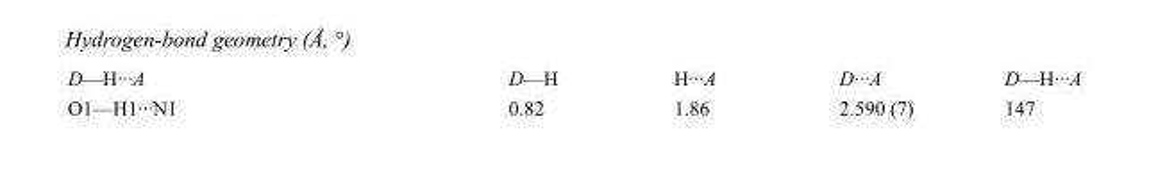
<table><tbody><tr><td>D—H···A</td><td>D—H</td><td>H···A</td><td>D···A</td><td>D—H···A</td></tr><tr><td>O1—H1···N1</td><td>0.82</td><td>1.86</td><td>2.590 (7)</td><td>147</td></tr></tbody></table>